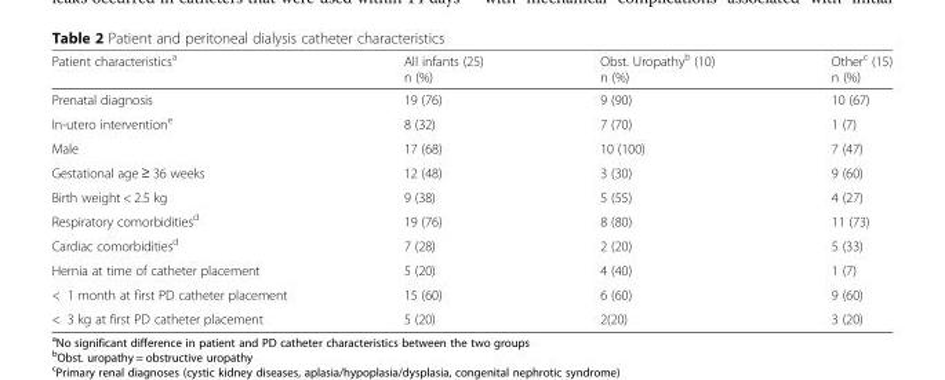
<table><thead><tr><td>Patient characteristics<sup>a</sup></td><td>All infants (25) n (%)</td><td>Obst. Uropathy<sup>b</sup> (10) n (%)</td><td>Other<sup>c</sup> (15) n (%)</td></tr></thead><tbody><tr><td>Prenatal diagnosis</td><td>19 (76)</td><td>9 (90)</td><td>10 (67)</td></tr><tr><td>In-utero intervention<sup>e</sup></td><td>8 (32)</td><td>7 (70)</td><td>1 (7)</td></tr><tr><td>Male</td><td>17 (68)</td><td>10 (100)</td><td>7 (47)</td></tr><tr><td>Gestational age ≥ 36 weeks</td><td>12 (48)</td><td>3 (30)</td><td>9 (60)</td></tr><tr><td>Birth weight &lt; 2.5 kg</td><td>9 (38)</td><td>5 (55)</td><td>4 (27)</td></tr><tr><td>Respiratory comorbidities<sup>d</sup></td><td>19 (76)</td><td>8 (80)</td><td>11 (73)</td></tr><tr><td>Cardiac comorbidities<sup>d</sup></td><td>7 (28)</td><td>2 (20)</td><td>5 (33)</td></tr><tr><td>Hernia at time of catheter placement</td><td>5 (20)</td><td>4 (40)</td><td>1 (7)</td></tr><tr><td>&lt; 1 month at first PD catheter placement</td><td>15 (60)</td><td>6 (60)</td><td>9 (60)</td></tr><tr><td>&lt; 3 kg at first PD catheter placement</td><td>5 (20)</td><td>2(20)</td><td>3 (20)</td></tr></tbody></table>